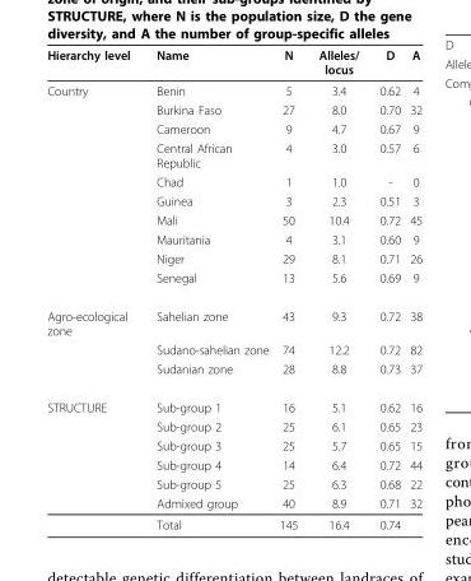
<table><thead><tr><td>Hierarchy level</td><td>Name</td><td>N</td><td>Alleles/ locus</td><td>D</td><td>A</td></tr></thead><tbody><tr><td rowspan="10">Country</td><td>Benin</td><td>5</td><td>3.4</td><td>0.62</td><td>4</td></tr><tr><td>Burkina Faso</td><td>27</td><td>8.0</td><td>0.70</td><td>32</td></tr><tr><td>Cameroon</td><td>9</td><td>4.7</td><td>0.67</td><td>9</td></tr><tr><td>Central African Republic</td><td>4</td><td>3.0</td><td>0.57</td><td>6</td></tr><tr><td>Chad</td><td>1</td><td>1.0</td><td>-</td><td>0</td></tr><tr><td>Guinea</td><td>3</td><td>2.3</td><td>0.51</td><td>3</td></tr><tr><td>Mali</td><td>50</td><td>10.4</td><td>0.72</td><td>45</td></tr><tr><td>Mauritania</td><td>4</td><td>3.1</td><td>0.60</td><td>9</td></tr><tr><td>Niger</td><td>29</td><td>8.1</td><td>0.71</td><td>26</td></tr><tr><td>Senegal</td><td>13</td><td>5.6</td><td>0.69</td><td>9</td></tr><tr><td rowspan="3">Agro-ecological zone</td><td>Sahelian zone</td><td>43</td><td>9.3</td><td>0.72</td><td>38</td></tr><tr><td>Sudano-sahelian zone</td><td>74</td><td>12.2</td><td>0.72</td><td>82</td></tr><tr><td>Sudanian zone</td><td>28</td><td>8.8</td><td>0.73</td><td>37</td></tr><tr><td rowspan="7">STRUCTURE</td><td>Sub-group 1</td><td>16</td><td>5.1</td><td>0.62</td><td>16</td></tr><tr><td>Sub-group 2</td><td>25</td><td>6.1</td><td>0.65</td><td>23</td></tr><tr><td>Sub-group 3</td><td>25</td><td>5.7</td><td>0.65</td><td>15</td></tr><tr><td>Sub-group 4</td><td>14</td><td>6.4</td><td>0.72</td><td>44</td></tr><tr><td>Sub-group 5</td><td>25</td><td>6.3</td><td>0.68</td><td>22</td></tr><tr><td>Admixed group</td><td>40</td><td>8.9</td><td>0.71</td><td>32</td></tr><tr><td>Total</td><td>145</td><td>16.4</td><td>0.74</td><td></td></tr></tbody></table>